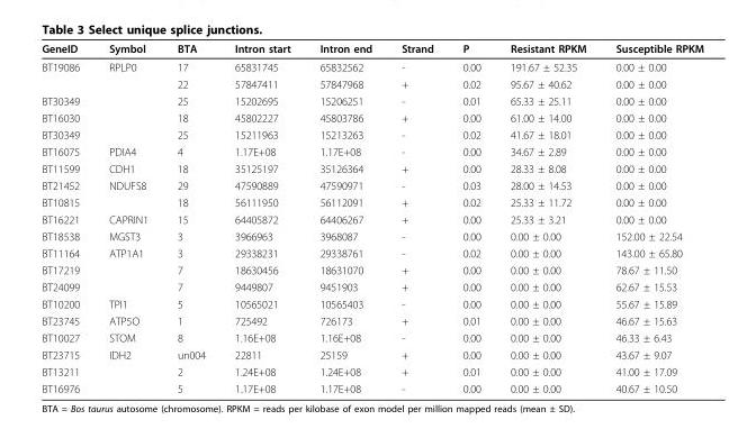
<table><thead><tr><td>GeneID</td><td>Symbol</td><td>BTA</td><td>Intron start</td><td>Intron end</td><td>Strand</td><td>P</td><td>Resistant RPKM</td><td>Susceptible RPKM</td></tr></thead><tbody><tr><td rowspan="2">BT19086</td><td>RPLP0</td><td>17</td><td>65831745</td><td>65832562</td><td>-</td><td>0.00</td><td>191.67 ± 52.35</td><td>0.00 ± 0.00</td></tr><tr><td></td><td>22</td><td>57847411</td><td>57847968</td><td>+</td><td>0.02</td><td>95.67 ± 40.62</td><td>0.00 ± 0.00</td></tr><tr><td>BT30349</td><td></td><td>25</td><td>15202695</td><td>15206251</td><td>-</td><td>0.01</td><td>65.33 ± 25.11</td><td>0.00 ± 0.00</td></tr><tr><td>BT16030</td><td></td><td>18</td><td>45802227</td><td>45803786</td><td>+</td><td>0.00</td><td>61.00 ± 14.00</td><td>0.00 ± 0.00</td></tr><tr><td>BT30349</td><td></td><td>25</td><td>15211963</td><td>15213263</td><td>-</td><td>0.02</td><td>41.67 ± 18.01</td><td>0.00 ± 0.00</td></tr><tr><td>BT16075</td><td>PDIA4</td><td>4</td><td>1.17E+08</td><td>1.17E+08</td><td>-</td><td>0.00</td><td>34.67 ± 2.89</td><td>0.00 ± 0.00</td></tr><tr><td>BT11599</td><td>CDH1</td><td>18</td><td>35125197</td><td>35126364</td><td>+</td><td>0.00</td><td>28.33 ± 8.08</td><td>0.00 ± 0.00</td></tr><tr><td>BT21452</td><td>NDUFS8</td><td>29</td><td>47590889</td><td>47590971</td><td>-</td><td>0.03</td><td>28.00 ± 14.53</td><td>0.00 ± 0.00</td></tr><tr><td>BT10815</td><td></td><td>18</td><td>56111950</td><td>56112091</td><td>+</td><td>0.02</td><td>25.33 ± 11.72</td><td>0.00 ± 0.00</td></tr><tr><td>BT16221</td><td>CAPRIN1</td><td>15</td><td>64405872</td><td>64406267</td><td>+</td><td>0.00</td><td>25.33 ± 3.21</td><td>0.00 ± 0.00</td></tr><tr><td>BT18538</td><td>MGST3</td><td>3</td><td>3966963</td><td>3968087</td><td>-</td><td>0.00</td><td>0.00 ± 0.00</td><td>152.00 ± 22.54</td></tr><tr><td>BT11164</td><td>ATP1A1</td><td>3</td><td>29338231</td><td>29338761</td><td>-</td><td>0.02</td><td>0.00 ± 0.00</td><td>143.00 ± 65.80</td></tr><tr><td>BT17219</td><td></td><td>7</td><td>18630456</td><td>18631070</td><td>+</td><td>0.00</td><td>0.00 ± 0.00</td><td>78.67 ± 11.50</td></tr><tr><td>BT24099</td><td></td><td>7</td><td>9449807</td><td>9451903</td><td>+</td><td>0.00</td><td>0.00 ± 0.00</td><td>62.67 ± 15.53</td></tr><tr><td>BT10200</td><td>TPI1</td><td>5</td><td>10565021</td><td>10565403</td><td>-</td><td>0.00</td><td>0.00 ± 0.00</td><td>55.67 ± 15.89</td></tr><tr><td>BT23745</td><td>ATP5O</td><td>1</td><td>725492</td><td>726173</td><td>+</td><td>0.01</td><td>0.00 ± 0.00</td><td>46.67 ± 15.63</td></tr><tr><td>BT10027</td><td>STOM</td><td>8</td><td>1.16E+08</td><td>1.16E+08</td><td>-</td><td>0.00</td><td>0.00 ± 0.00</td><td>46.33 ± 6.43</td></tr><tr><td>BT23715</td><td>IDH2</td><td>un004</td><td>22811</td><td>25159</td><td>+</td><td>0.00</td><td>0.00 ± 0.00</td><td>43.67 ± 9.07</td></tr><tr><td>BT13211</td><td></td><td>2</td><td>1.24E+08</td><td>1.24E+08</td><td>+</td><td>0.01</td><td>0.00 ± 0.00</td><td>41.00 ± 17.09</td></tr><tr><td>BT16976</td><td></td><td>5</td><td>1.17E+08</td><td>1.17E+08</td><td>-</td><td>0.00</td><td>0.00 ± 0.00</td><td>40.67 ± 10.50</td></tr></tbody></table>